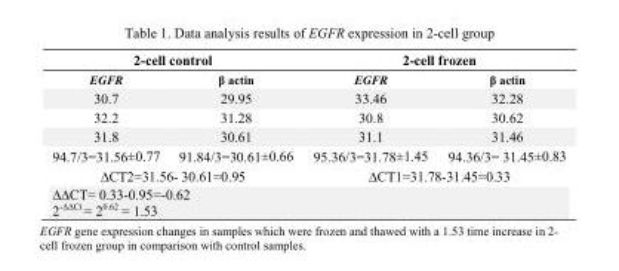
<table><thead><tr><td colspan="2">2-cell control</td><td colspan="2">2-cell frozen</td></tr><tr><td>EGFR</td><td>β actin</td><td>EGFR</td><td>β actin</td></tr></thead><tbody><tr><td>30.7</td><td>29.95</td><td>33.46</td><td>32.28</td></tr><tr><td>32.2</td><td>31.28</td><td>30.8</td><td>30.62</td></tr><tr><td>31.8</td><td>30.61</td><td>31.1</td><td>31.46</td></tr><tr><td>94.7/3=31.56±0.77</td><td>91.84/3=30.61±0.66</td><td>95.36/3=31.78±1.45</td><td>94.36/3= 31.45±0.83</td></tr><tr><td colspan="2">∆CT2=31.56- 30.61=0.95</td><td colspan="2">∆CT1=31.78-31.45=0.33</td></tr><tr><td colspan="4">∆∆CT= 0.33-0.95=-0.62 2-ΔΔCt = 20.62 = 1.53</td></tr></tbody></table>